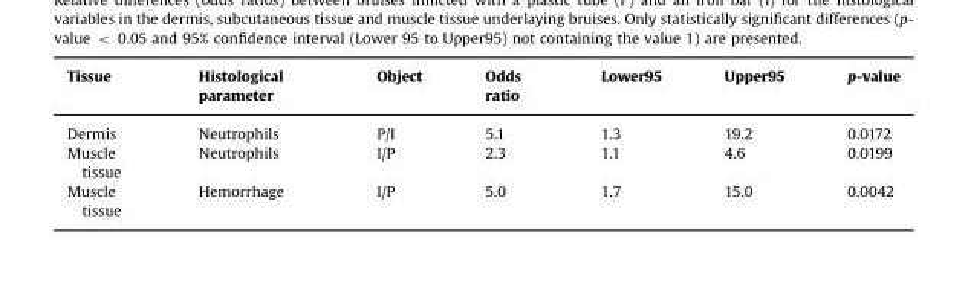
<table><thead><tr><td>Tissue</td><td>Histological parameter</td><td>Object</td><td>Odds ratio</td><td>Lower95</td><td>Upper95</td><td>p-value</td></tr></thead><tbody><tr><td>Dermis</td><td>Neutrophils</td><td>P/I</td><td>5.1</td><td>1.3</td><td>19.2</td><td>0.0172</td></tr><tr><td>Muscle tissue</td><td>Neutrophils</td><td>I/P</td><td>2.3</td><td>1.1</td><td>4.6</td><td>0.0199</td></tr><tr><td>Muscle tissue</td><td>Hemorrhage</td><td>I/P</td><td>5.0</td><td>1.7</td><td>15.0</td><td>0.0042</td></tr></tbody></table>